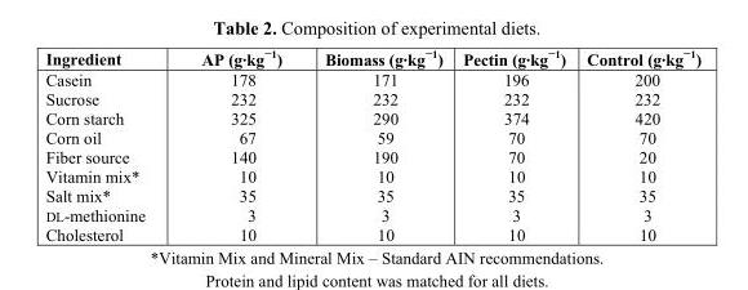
<table><thead><tr><td>Ingredient</td><td>AP (g·kg<sup>−1</sup>)</td><td>Biomass (g·kg<sup>−1</sup>)</td><td>Pectin (g·kg<sup>−1</sup>)</td><td>Control (g·kg<sup>−1</sup>)</td></tr></thead><tbody><tr><td>Casein</td><td>178</td><td>171</td><td>196</td><td>200</td></tr><tr><td>Sucrose</td><td>232</td><td>232</td><td>232</td><td>232</td></tr><tr><td>Corn starch</td><td>325</td><td>290</td><td>374</td><td>420</td></tr><tr><td>Corn oil</td><td>67</td><td>59</td><td>70</td><td>70</td></tr><tr><td>Fiber source</td><td>140</td><td>190</td><td>70</td><td>20</td></tr><tr><td>Vitamin mix*</td><td>10</td><td>10</td><td>10</td><td>10</td></tr><tr><td>Salt mix*</td><td>35</td><td>35</td><td>35</td><td>35</td></tr><tr><td>DL-methionine</td><td>3</td><td>3</td><td>3</td><td>3</td></tr><tr><td>Cholesterol</td><td>10</td><td>10</td><td>10</td><td>10</td></tr></tbody></table>